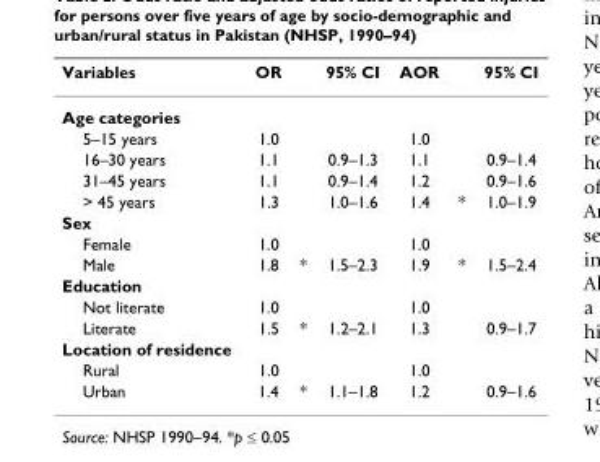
<table><thead><tr><td>Variables</td><td>OR</td><td></td><td>95% CI</td><td>AOR</td><td></td><td>95% CI</td></tr></thead><tbody><tr><td colspan="7">Age categories</td></tr><tr><td>5–15 years</td><td>1.0</td><td></td><td></td><td>1.0</td><td></td><td></td></tr><tr><td>16–30 years</td><td>1.1</td><td></td><td>0.9–1.3</td><td>1.1</td><td></td><td>0.9–1.4</td></tr><tr><td>31–45 years</td><td>1.1</td><td></td><td>0.9–1.4</td><td>1.2</td><td></td><td>0.9–1.6</td></tr><tr><td>&gt; 45 years</td><td>1.3</td><td></td><td>1.0–1.6</td><td>1.4</td><td>*</td><td>1.0–1.9</td></tr><tr><td colspan="7">Sex</td></tr><tr><td>Female</td><td>1.0</td><td></td><td></td><td>1.0</td><td></td><td></td></tr><tr><td>Male</td><td>1.8</td><td>*</td><td>1.5–2.3</td><td>1.9</td><td>*</td><td>1.5–2.4</td></tr><tr><td colspan="7">Education</td></tr><tr><td>Not literate</td><td>1.0</td><td></td><td></td><td>1.0</td><td></td><td></td></tr><tr><td>Literate</td><td>1.5</td><td>*</td><td>1.2–2.1</td><td>1.3</td><td></td><td>0.9–1.7</td></tr><tr><td colspan="7">Location of residence</td></tr><tr><td>Rural</td><td>1.0</td><td></td><td></td><td>1.0</td><td></td><td></td></tr><tr><td>Urban</td><td>1.4</td><td>*</td><td>1.1–1.8</td><td>1.2</td><td></td><td>0.9–1.6</td></tr></tbody></table>